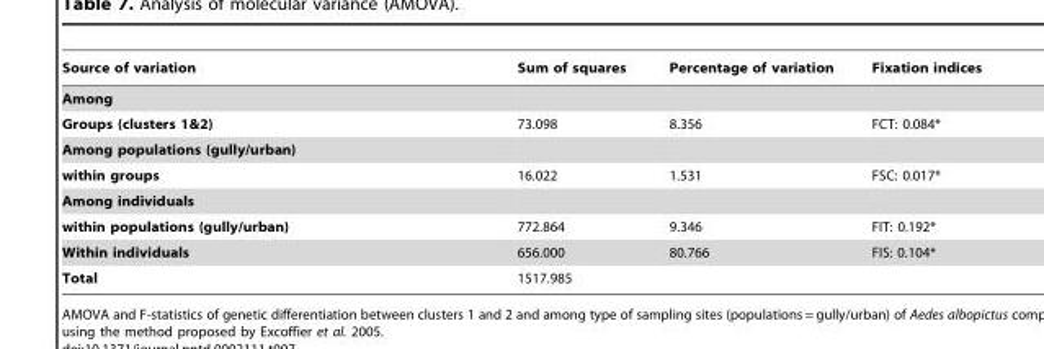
<table><thead><tr><td>Source of variation</td><td>Sum of squares</td><td>Percentage of variation</td><td>Fixation indices</td></tr></thead><tbody><tr><td colspan="4">Among</td></tr><tr><td>Groups (clusters 1&amp;2)</td><td>73.098</td><td>8.356</td><td>FCT: 0.084*</td></tr><tr><td colspan="4">Among populations (gully/urban)</td></tr><tr><td>within groups</td><td>16.022</td><td>1.531</td><td>FSC: 0.017*</td></tr><tr><td colspan="4">Among individuals</td></tr><tr><td>within populations (gully/urban)</td><td>772.864</td><td>9.346</td><td>FIT: 0.192*</td></tr><tr><td>Within individuals</td><td>656.000</td><td>80.766</td><td>FIS: 0.104*</td></tr><tr><td>Total</td><td>1517.985</td><td></td><td></td></tr></tbody></table>